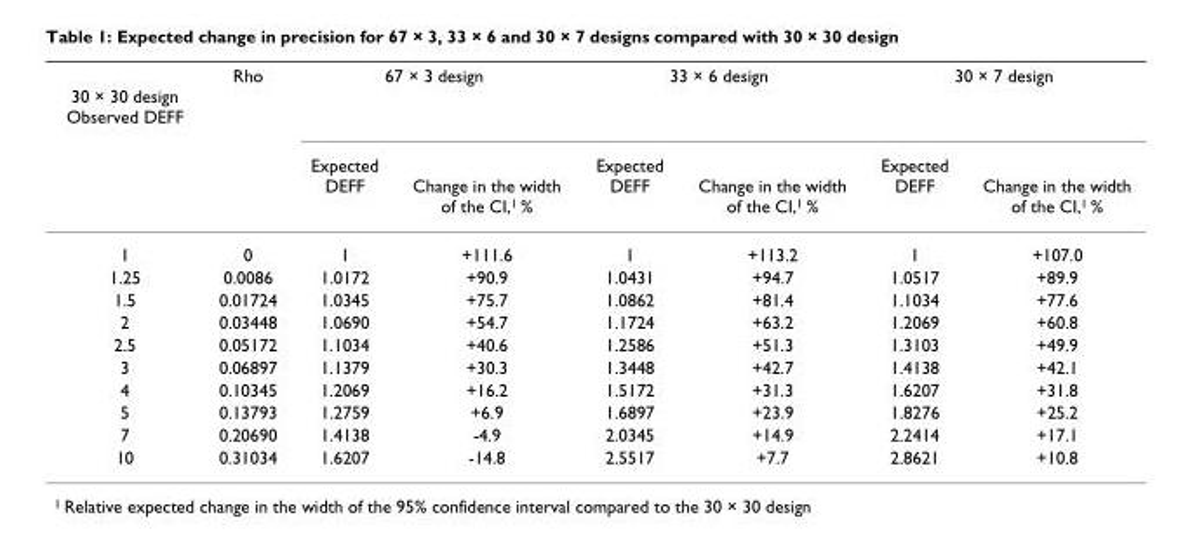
<table><thead><tr><td rowspan="2">30 × 30 design Observed DEFF</td><td rowspan="2">Rho</td><td colspan="2">67 × 3 design</td><td colspan="2">33 × 6 design</td><td colspan="2">30 × 7 design</td></tr><tr><td>Expected DEFF</td><td>Change in the width of the CI,<sup>1</sup> %</td><td>Expected DEFF</td><td>Change in the width of the CI,<sup>1</sup> %</td><td>Expected DEFF</td><td>Change in the width of the CI,<sup>1</sup> %</td></tr></thead><tbody><tr><td>1</td><td>0</td><td>1</td><td>+111.6</td><td>1</td><td>+113.2</td><td>1</td><td>+107.0</td></tr><tr><td>1.25</td><td>0.0086</td><td>1.0172</td><td>+90.9</td><td>1.0431</td><td>+94.7</td><td>1.0517</td><td>+89.9</td></tr><tr><td>1.5</td><td>0.01724</td><td>1.0345</td><td>+75.7</td><td>1.0862</td><td>+81.4</td><td>1.1034</td><td>+77.6</td></tr><tr><td>2</td><td>0.03448</td><td>1.0690</td><td>+54.7</td><td>1.1724</td><td>+63.2</td><td>1.2069</td><td>+60.8</td></tr><tr><td>2.5</td><td>0.05172</td><td>1.1034</td><td>+40.6</td><td>1.2586</td><td>+51.3</td><td>1.3103</td><td>+49.9</td></tr><tr><td>3</td><td>0.06897</td><td>1.1379</td><td>+30.3</td><td>1.3448</td><td>+42.7</td><td>1.4138</td><td>+42.1</td></tr><tr><td>4</td><td>0.10345</td><td>1.2069</td><td>+16.2</td><td>1.5172</td><td>+31.3</td><td>1.6207</td><td>+31.8</td></tr><tr><td>5</td><td>0.13793</td><td>1.2759</td><td>+6.9</td><td>1.6897</td><td>+23.9</td><td>1.8276</td><td>+25.2</td></tr><tr><td>7</td><td>0.20690</td><td>1.4138</td><td>-4.9</td><td>2.0345</td><td>+14.9</td><td>2.2414</td><td>+17.1</td></tr><tr><td>10</td><td>0.31034</td><td>1.6207</td><td>-14.8</td><td>2.5517</td><td>+7.7</td><td>2.8621</td><td>+10.8</td></tr></tbody></table>